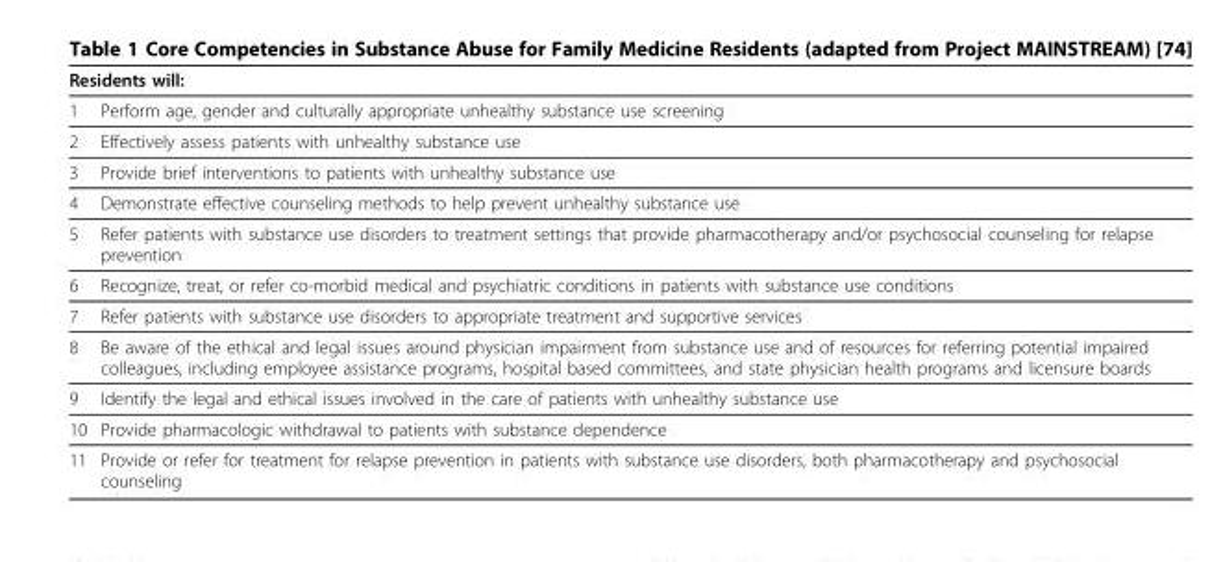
<table><thead><tr><td colspan="2">Residents will:</td></tr><tr><td>1</td><td>Perform age, gender and culturally appropriate unhealthy substance use screening</td></tr></thead><tbody><tr><td>2</td><td>Effectively assess patients with unhealthy substance use</td></tr><tr><td>3</td><td>Provide brief interventions to patients with unhealthy substance use</td></tr><tr><td>4</td><td>Demonstrate effective counseling methods to help prevent unhealthy substance use</td></tr><tr><td>5</td><td>Refer patients with substance use disorders to treatment settings that provide pharmacotherapy and/or psychosocial counseling for relapse prevention</td></tr><tr><td>6</td><td>Recognize, treat, or refer co-morbid medical and psychiatric conditions in patients with substance use conditions</td></tr><tr><td>7</td><td>Refer patients with substance use disorders to appropriate treatment and supportive services</td></tr><tr><td>8</td><td>Be aware of the ethical and legal issues around physician impairment from substance use and of resources for referring potential impaired colleagues, including employee assistance programs, hospital based committees, and state physician health programs and licensure boards</td></tr><tr><td>9</td><td>Identify the legal and ethical issues involved in the care of patients with unhealthy substance use</td></tr><tr><td>10</td><td>Provide pharmacologic withdrawal to patients with substance dependence</td></tr><tr><td>11</td><td>Provide or refer for treatment for relapse prevention in patients with substance use disorders, both pharmacotherapy and psychosocial counseling</td></tr></tbody></table>